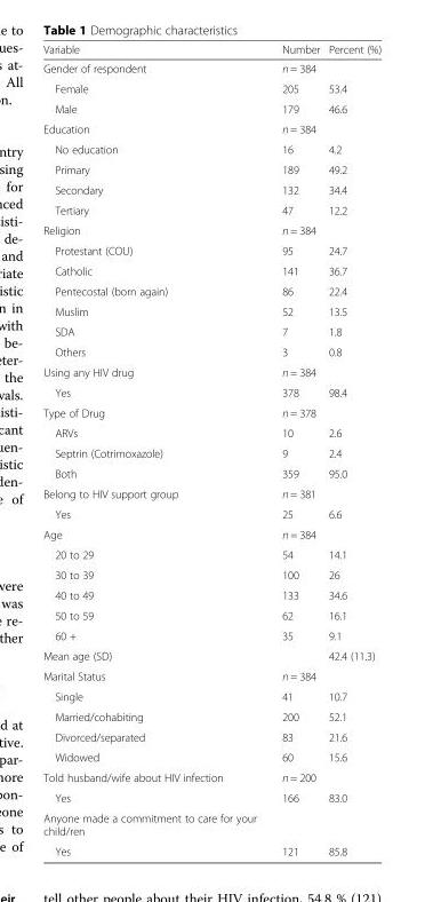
<table><thead><tr><td>Variable</td><td>Number</td><td>Percent (%)</td></tr></thead><tbody><tr><td>Gender of respondent</td><td>n = 384</td><td></td></tr><tr><td>Female</td><td>205</td><td>53.4</td></tr><tr><td>Male</td><td>179</td><td>46.6</td></tr><tr><td>Education</td><td>n = 384</td><td></td></tr><tr><td>No education</td><td>16</td><td>4.2</td></tr><tr><td>Primary</td><td>189</td><td>49.2</td></tr><tr><td>Secondary</td><td>132</td><td>34.4</td></tr><tr><td>Tertiary</td><td>47</td><td>12.2</td></tr><tr><td>Religion</td><td>n = 384</td><td></td></tr><tr><td>Protestant (COU)</td><td>95</td><td>24.7</td></tr><tr><td>Catholic</td><td>141</td><td>36.7</td></tr><tr><td>Pentecostal (born again)</td><td>86</td><td>22.4</td></tr><tr><td>Muslim</td><td>52</td><td>13.5</td></tr><tr><td>SDA</td><td>7</td><td>1.8</td></tr><tr><td>Others</td><td>3</td><td>0.8</td></tr><tr><td>Using any HIV drug</td><td>n = 384</td><td></td></tr><tr><td>Yes</td><td>378</td><td>98.4</td></tr><tr><td>Type of Drug</td><td>n = 378</td><td></td></tr><tr><td>ARVs</td><td>10</td><td>2.6</td></tr><tr><td>Septrin (Cotrimoxazole)</td><td>9</td><td>2.4</td></tr><tr><td>Both</td><td>359</td><td>95.0</td></tr><tr><td>Belong to HIV support group</td><td>n = 381</td><td></td></tr><tr><td>Yes</td><td>25</td><td>6.6</td></tr><tr><td>Age</td><td>n = 384</td><td></td></tr><tr><td>20 to 29</td><td>54</td><td>14.1</td></tr><tr><td>30 to 39</td><td>100</td><td>26</td></tr><tr><td>40 to 49</td><td>133</td><td>34.6</td></tr><tr><td>50 to 59</td><td>62</td><td>16.1</td></tr><tr><td>60 +</td><td>35</td><td>9.1</td></tr><tr><td>Mean age (SD)</td><td></td><td>42.4 (11.3)</td></tr><tr><td>Marital Status</td><td>n = 384</td><td></td></tr><tr><td>Single</td><td>41</td><td>10.7</td></tr><tr><td>Married/cohabiting</td><td>200</td><td>52.1</td></tr><tr><td>Divorced/separated</td><td>83</td><td>21.6</td></tr><tr><td>Widowed</td><td>60</td><td>15.6</td></tr><tr><td>Told husband/wife about HIV infection</td><td>n = 200</td><td></td></tr><tr><td>Yes</td><td>166</td><td>83.0</td></tr><tr><td colspan="3">Anyone made a commitment to care for your child/ren</td></tr><tr><td>Yes</td><td>121</td><td>85.8</td></tr></tbody></table>